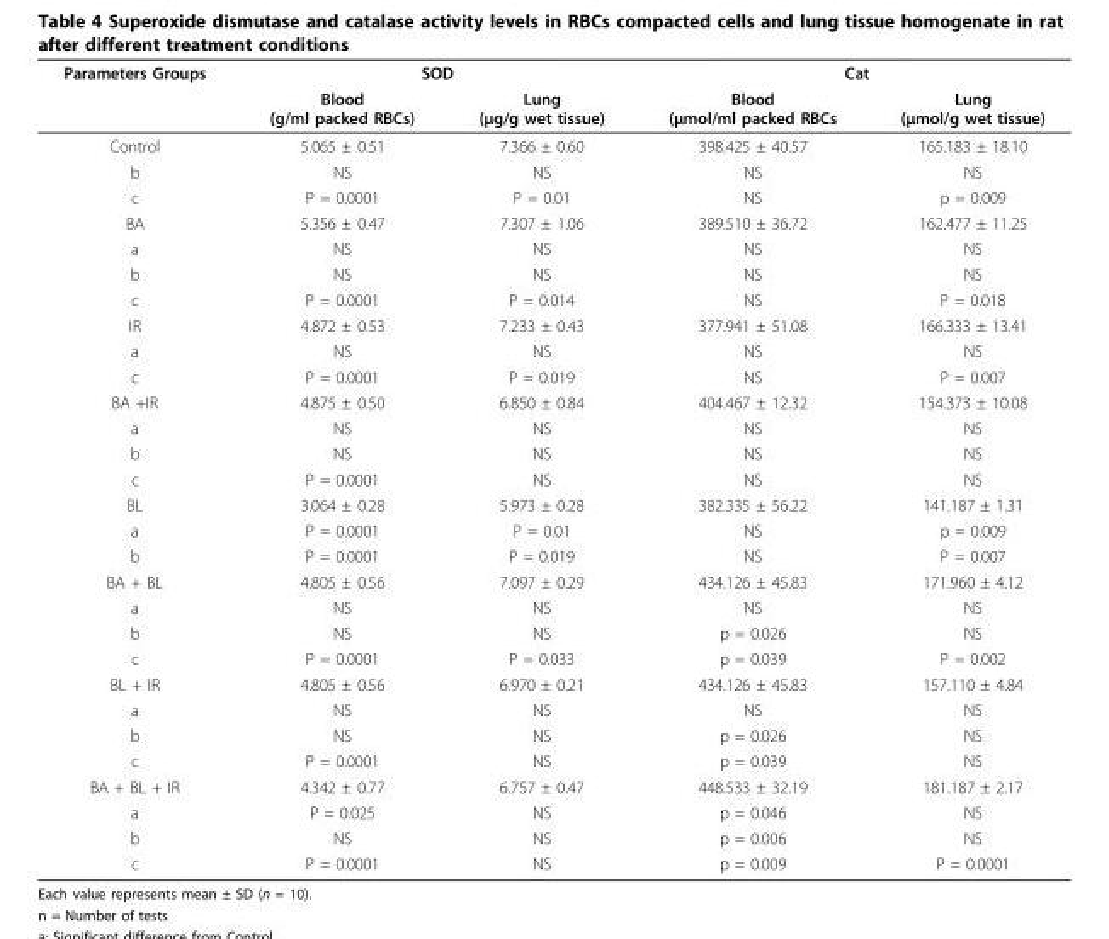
<table><thead><tr><td rowspan="2">Parameters Groups</td><td colspan="2">SOD</td><td colspan="2">Cat</td></tr><tr><td>Blood (g/ml packed RBCs)</td><td>Lung (μg/g wet tissue)</td><td>Blood (μmol/ml packed RBCs</td><td>Lung (μmol/g wet tissue)</td></tr></thead><tbody><tr><td>Control</td><td>5.065 ± 0.51</td><td>7.366 ± 0.60</td><td>398.425 ± 40.57</td><td>165.183 ± 18.10</td></tr><tr><td>b</td><td>NS</td><td>NS</td><td>NS</td><td>NS</td></tr><tr><td>c</td><td>P = 0.0001</td><td>P = 0.01</td><td>NS</td><td>p = 0.009</td></tr><tr><td>BA</td><td>5.356 ± 0.47</td><td>7.307 ± 1.06</td><td>389.510 ± 36.72</td><td>162.477 ± 11.25</td></tr><tr><td>a</td><td>NS</td><td>NS</td><td>NS</td><td>NS</td></tr><tr><td>b</td><td>NS</td><td>NS</td><td>NS</td><td>NS</td></tr><tr><td>c</td><td>P = 0.0001</td><td>P = 0.014</td><td>NS</td><td>P = 0.018</td></tr><tr><td>IR</td><td>4.872 ± 0.53</td><td>7.233 ± 0.43</td><td>377.941 ± 51.08</td><td>166.333 ± 13.41</td></tr><tr><td>a</td><td>NS</td><td>NS</td><td>NS</td><td>NS</td></tr><tr><td>c</td><td>P = 0.0001</td><td>P = 0.019</td><td>NS</td><td>P = 0.007</td></tr><tr><td>BA +IR</td><td>4.875 ± 0.50</td><td>6.850 ± 0.84</td><td>404.467 ± 12.32</td><td>154.373 ± 10.08</td></tr><tr><td>a</td><td>NS</td><td>NS</td><td>NS</td><td>NS</td></tr><tr><td>b</td><td>NS</td><td>NS</td><td>NS</td><td>NS</td></tr><tr><td>c</td><td>P = 0.0001</td><td>NS</td><td>NS</td><td>NS</td></tr><tr><td>BL</td><td>3.064 ± 0.28</td><td>5.973 ± 0.28</td><td>382.335 ± 56.22</td><td>141.187 ± 1.31</td></tr><tr><td>a</td><td>P = 0.0001</td><td>P = 0.01</td><td>NS</td><td>p = 0.009</td></tr><tr><td>b</td><td>P = 0.0001</td><td>P = 0.019</td><td>NS</td><td>P = 0.007</td></tr><tr><td>BA + BL</td><td>4.805 ± 0.56</td><td>7.097 ± 0.29</td><td>434.126 ± 45.83</td><td>171.960 ± 4.12</td></tr><tr><td>a</td><td>NS</td><td>NS</td><td>NS</td><td>NS</td></tr><tr><td>b</td><td>NS</td><td>NS</td><td>p = 0.026</td><td>NS</td></tr><tr><td>c</td><td>P = 0.0001</td><td>P = 0.033</td><td>p = 0.039</td><td>P = 0.002</td></tr><tr><td>BL + IR</td><td>4.805 ± 0.56</td><td>6.970 ± 0.21</td><td>434.126 ± 45.83</td><td>157.110 ± 4.84</td></tr><tr><td>a</td><td>NS</td><td>NS</td><td>NS</td><td>NS</td></tr><tr><td>b</td><td>NS</td><td>NS</td><td>p = 0.026</td><td>NS</td></tr><tr><td>c</td><td>P = 0.0001</td><td>NS</td><td>p = 0.039</td><td>NS</td></tr><tr><td>BA + BL + IR</td><td>4.342 ± 0.77</td><td>6.757 ± 0.47</td><td>448.533 ± 32.19</td><td>181.187 ± 2.17</td></tr><tr><td>a</td><td>P = 0.025</td><td>NS</td><td>p = 0.046</td><td>NS</td></tr><tr><td>b</td><td>NS</td><td>NS</td><td>p = 0.006</td><td>NS</td></tr><tr><td>c</td><td>P = 0.0001</td><td>NS</td><td>p = 0.009</td><td>P = 0.0001</td></tr></tbody></table>